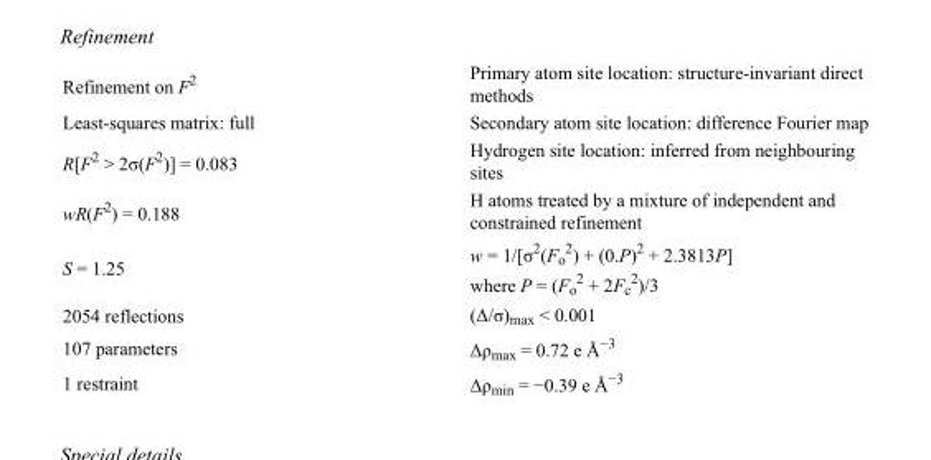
<table><tbody><tr><td>Refinement on F<sup>2</sup></td><td>Primary atom site location: structure-invariant direct methods</td></tr><tr><td>Least-squares matrix: full</td><td>Secondary atom site location: difference Fourier map</td></tr><tr><td>R[F<sup>2</sup> &gt; 2σ(F<sup>2</sup>)] = 0.083</td><td>Hydrogen site location: inferred from neighbouring sites</td></tr><tr><td>wR(F<sup>2</sup>) = 0.188</td><td>H atoms treated by a mixture of independent and constrained refinement</td></tr><tr><td>S = 1.25</td><td>w = 1/[σ<sup>2</sup>(F<sub>o</sub> <sup>2</sup>) + (0.P)<sup>2</sup> + 2.3813P] where P = (F<sub>o</sub> <sup>2</sup> + 2F<sub>c</sub> <sup>2</sup>)/3</td></tr><tr><td>2054 reflections</td><td>(Δ/σ)<sub>max</sub> &lt; 0.001</td></tr><tr><td>107 parameters</td><td>Δρ<sub>max</sub> = 0.72 e Å<sup>−3</sup></td></tr><tr><td>1 restraint</td><td>Δρ<sub>min</sub> = −0.39 e Å<sup>−3</sup></td></tr></tbody></table>